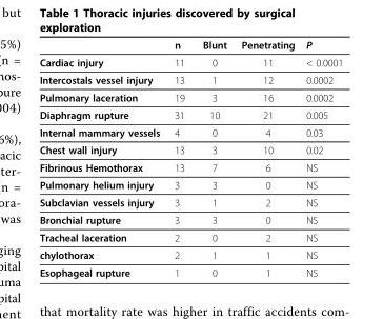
<table><thead><tr><td></td><td>n</td><td>Blunt</td><td>Penetrating</td><td>P</td></tr></thead><tbody><tr><td>Cardiac injury</td><td>11</td><td>0</td><td>11</td><td>&lt; 0.0001</td></tr><tr><td>Intercostals vessel injury</td><td>13</td><td>1</td><td>12</td><td>0.0002</td></tr><tr><td>Pulmonary laceration</td><td>19</td><td>3</td><td>16</td><td>0.0002</td></tr><tr><td>Diaphragm rupture</td><td>31</td><td>10</td><td>21</td><td>0.005</td></tr><tr><td>Internal mammary vessels</td><td>4</td><td>0</td><td>4</td><td>0.03</td></tr><tr><td>Chest wall injury</td><td>13</td><td>3</td><td>10</td><td>0.02</td></tr><tr><td>Fibrinous Hemothorax</td><td>13</td><td>7</td><td>6</td><td>NS</td></tr><tr><td>Pulmonary helium injury</td><td>3</td><td>3</td><td>0</td><td>NS</td></tr><tr><td>Subclavian vessels injury</td><td>3</td><td>1</td><td>2</td><td>NS</td></tr><tr><td>Bronchial rupture</td><td>3</td><td>3</td><td>0</td><td>NS</td></tr><tr><td>Tracheal laceration</td><td>2</td><td>0</td><td>2</td><td>NS</td></tr><tr><td>chylothorax</td><td>2</td><td>1</td><td>1</td><td>NS</td></tr><tr><td>Esophageal rupture</td><td>1</td><td>0</td><td>1</td><td>NS</td></tr></tbody></table>